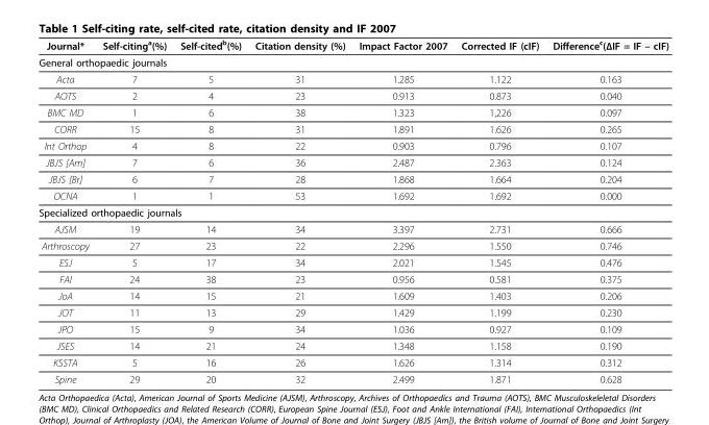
<table><thead><tr><td>Journal*</td><td>Self-citing<sup>a</sup>(%)</td><td>Self-cited<sup>b</sup>(%)</td><td>Citation density (%)</td><td>Impact Factor 2007</td><td>Corrected IF (cIF)</td><td>Differencec(ΔIF = IF – cIF)</td></tr></thead><tbody><tr><td colspan="7">General orthopaedic journals</td></tr><tr><td>Acta</td><td>7</td><td>5</td><td>31</td><td>1.285</td><td>1.122</td><td>0.163</td></tr><tr><td>AOTS</td><td>2</td><td>4</td><td>23</td><td>0.913</td><td>0.873</td><td>0.040</td></tr><tr><td>BMC MD</td><td>1</td><td>6</td><td>38</td><td>1.323</td><td>1,226</td><td>0.097</td></tr><tr><td>CORR</td><td>15</td><td>8</td><td>31</td><td>1.891</td><td>1.626</td><td>0.265</td></tr><tr><td>Int Orthop</td><td>4</td><td>8</td><td>22</td><td>0.903</td><td>0.796</td><td>0.107</td></tr><tr><td>JBJS [Am]</td><td>7</td><td>6</td><td>36</td><td>2.487</td><td>2.363</td><td>0.124</td></tr><tr><td>JBJS [Br]</td><td>6</td><td>7</td><td>28</td><td>1.868</td><td>1.664</td><td>0.204</td></tr><tr><td>OCNA</td><td>1</td><td>1</td><td>53</td><td>1.692</td><td>1.692</td><td>0.000</td></tr><tr><td colspan="7">Specialized orthopaedic journals</td></tr><tr><td>AJSM</td><td>19</td><td>14</td><td>34</td><td>3.397</td><td>2.731</td><td>0.666</td></tr><tr><td>Arthroscopy</td><td>27</td><td>23</td><td>22</td><td>2.296</td><td>1.550</td><td>0.746</td></tr><tr><td>ESJ</td><td>5</td><td>17</td><td>34</td><td>2.021</td><td>1.545</td><td>0.476</td></tr><tr><td>FAI</td><td>24</td><td>38</td><td>23</td><td>0.956</td><td>0.581</td><td>0.375</td></tr><tr><td>JoA</td><td>14</td><td>15</td><td>21</td><td>1.609</td><td>1.403</td><td>0.206</td></tr><tr><td>JOT</td><td>11</td><td>13</td><td>29</td><td>1.429</td><td>1.199</td><td>0.230</td></tr><tr><td>JPO</td><td>15</td><td>9</td><td>34</td><td>1.036</td><td>0.927</td><td>0.109</td></tr><tr><td>JSES</td><td>14</td><td>21</td><td>24</td><td>1.348</td><td>1.158</td><td>0.190</td></tr><tr><td>KSSTA</td><td>5</td><td>16</td><td>26</td><td>1.626</td><td>1.314</td><td>0.312</td></tr><tr><td>Spine</td><td>29</td><td>20</td><td>32</td><td>2.499</td><td>1.871</td><td>0.628</td></tr></tbody></table>